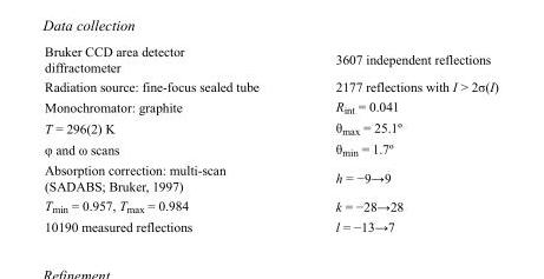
<table><tbody><tr><td>Bruker CCD area detector diffractometer</td><td>3607 independent reflections</td></tr><tr><td>Radiation source: fine-focus sealed tube</td><td>2177 reflections with I &gt; 2σ(I)</td></tr><tr><td>Monochromator: graphite</td><td>R<sub>int</sub> = 0.041</td></tr><tr><td>T = 296(2) K</td><td>θ<sub>max</sub> = 25.1º</td></tr><tr><td>φ and ω scans</td><td>θ<sub>min</sub> = 1.7º</td></tr><tr><td>Absorption correction: multi-scan (SADABS; Bruker, 1997)</td><td>h = −9→9</td></tr><tr><td>T<sub>min</sub> = 0.957, T<sub>max</sub> = 0.984</td><td>k = −28→28</td></tr><tr><td>10190 measured reflections</td><td>l = −13→7</td></tr></tbody></table>